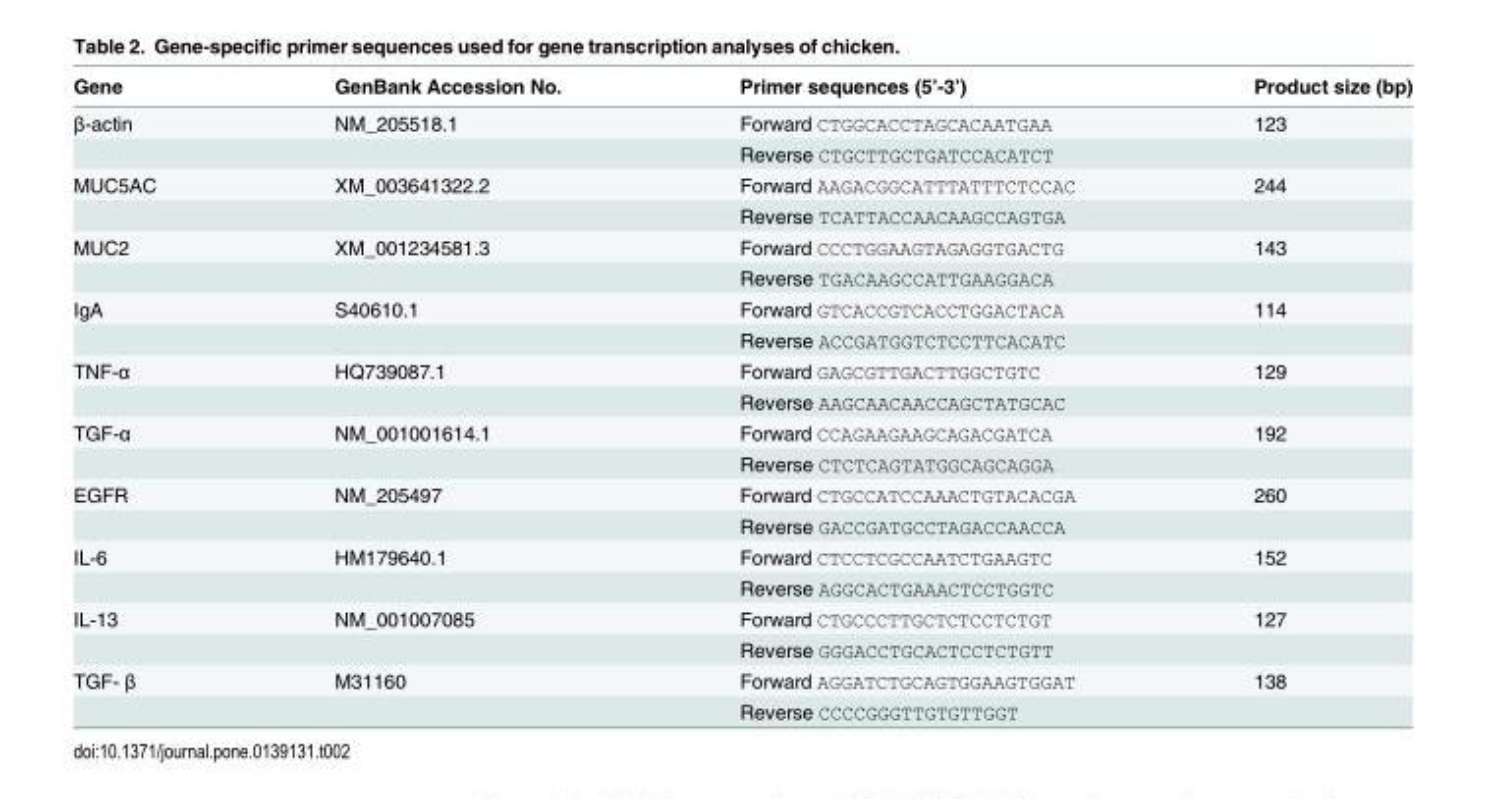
<table><thead><tr><td>Gene</td><td>GenBank Accession No.</td><td>Primer sequences (5’-3’)</td><td>Product size (bp)</td></tr></thead><tbody><tr><td rowspan="2">β-actin</td><td>NM_205518.1</td><td>Forward CTGGCACCTAGCACAATGAA</td><td>123</td></tr><tr><td></td><td>Reverse CTGCTTGCTGATCCACATCT</td><td></td></tr><tr><td rowspan="2">MUC5AC</td><td>XM_003641322.2</td><td>Forward AAGACGGCATTTATTTCTCCAC</td><td>244</td></tr><tr><td></td><td>Reverse TCATTACCAACAAGCCAGTGA</td><td></td></tr><tr><td rowspan="2">MUC2</td><td>XM_001234581.3</td><td>Forward CCCTGGAAGTAGAGGTGACTG</td><td>143</td></tr><tr><td></td><td>Reverse TGACAAGCCATTGAAGGACA</td><td></td></tr><tr><td rowspan="2">IgA</td><td>S40610.1</td><td>Forward GTCACCGTCACCTGGACTACA</td><td>114</td></tr><tr><td></td><td>Reverse ACCGATGGTCTCCTTCACATC</td><td></td></tr><tr><td rowspan="2">TNF-α</td><td>HQ739087.1</td><td>Forward GAGCGTTGACTTGGCTGTC</td><td>129</td></tr><tr><td></td><td>Reverse AAGCAACAACCAGCTATGCAC</td><td></td></tr><tr><td rowspan="2">TGF-α</td><td>NM_001001614.1</td><td>Forward CCAGAAGAAGCAGACGATCA</td><td>192</td></tr><tr><td></td><td>Reverse CTCTCAGTATGGCAGCAGGA</td><td></td></tr><tr><td rowspan="2">EGFR</td><td>NM_205497</td><td>Forward CTGCCATCCAAACTGTACACGA</td><td>260</td></tr><tr><td></td><td>Reverse GACCGATGCCTAGACCAACCA</td><td></td></tr><tr><td rowspan="2">IL-6</td><td>HM179640.1</td><td>Forward CTCCTCGCCAATCTGAAGTC</td><td>152</td></tr><tr><td></td><td>Reverse AGGCACTGAAACTCCTGGTC</td><td></td></tr><tr><td rowspan="2">IL-13</td><td>NM_001007085</td><td>Forward CTGCCCTTGCTCTCCTCTGT</td><td>127</td></tr><tr><td></td><td>Reverse GGGACCTGCACTCCTCTGTT</td><td></td></tr><tr><td rowspan="2">TGF- β</td><td>M31160</td><td>Forward AGGATCTGCAGTGGAAGTGGAT</td><td>138</td></tr><tr><td></td><td>Reverse CCCCGGGTTGTGTTGGT</td><td></td></tr></tbody></table>